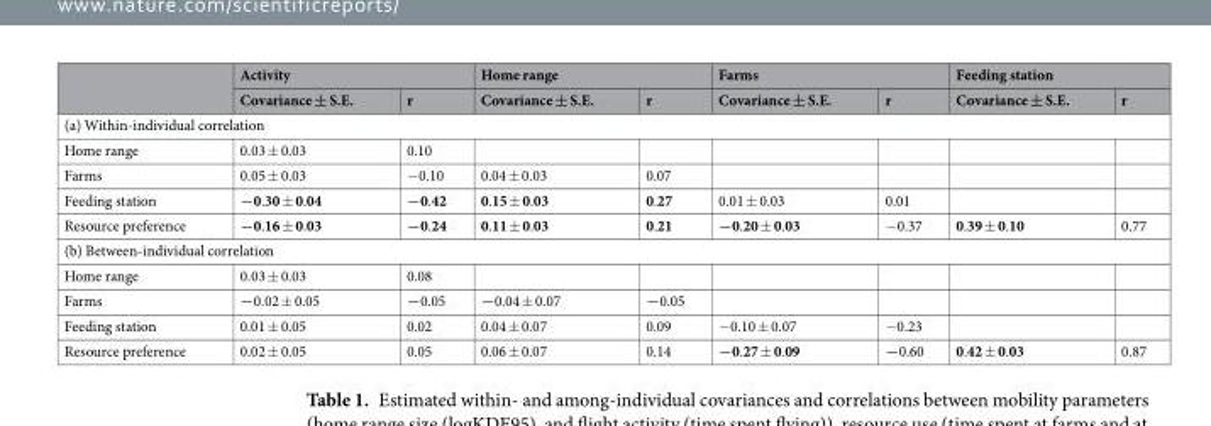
<table><thead><tr><td rowspan="2"></td><td colspan="2">Activity</td><td colspan="2">Home range</td><td colspan="2">Farms</td><td colspan="2">Feeding station</td></tr><tr><td>Covariance ± S.E.</td><td>r</td><td>Covariance ± S.E.</td><td>r</td><td>Covariance ± S.E.</td><td>r</td><td>Covariance ± S.E.</td><td>r</td></tr></thead><tbody><tr><td colspan="9">(a) Within-individual correlation</td></tr><tr><td>Home range</td><td>0.03 ± 0.03</td><td>0.10</td><td></td><td></td><td></td><td></td><td></td><td></td></tr><tr><td>Farms</td><td>0.05 ± 0.03</td><td>−0.10</td><td>0.04 ± 0.03</td><td>0.07</td><td></td><td></td><td></td><td></td></tr><tr><td>Feeding station</td><td>−0.30 ± 0.04</td><td>−0.42</td><td>0.15 ± 0.03</td><td>0.27</td><td>0.01 ± 0.03</td><td>0.01</td><td></td><td></td></tr><tr><td>Resource preference</td><td>−0.16 ± 0.03</td><td>−0.24</td><td>0.11 ± 0.03</td><td>0.21</td><td>−0.20 ± 0.03</td><td>−0.37</td><td>0.39 ± 0.10</td><td>0.77</td></tr><tr><td colspan="9">(b) Between-individual correlation</td></tr><tr><td>Home range</td><td>0.03 ± 0.03</td><td>0.08</td><td></td><td></td><td></td><td></td><td></td><td></td></tr><tr><td>Farms</td><td>−0.02 ± 0.05</td><td>−0.05</td><td>−0.04 ± 0.07</td><td>−0.05</td><td></td><td></td><td></td><td></td></tr><tr><td>Feeding station</td><td>0.01 ± 0.05</td><td>0.02</td><td>0.04 ± 0.07</td><td>0.09</td><td>−0.10 ± 0.07</td><td>−0.23</td><td></td><td></td></tr><tr><td>Resource preference</td><td>0.02 ± 0.05</td><td>0.05</td><td>0.06 ± 0.07</td><td>0.14</td><td>−0.27 ± 0.09</td><td>−0.60</td><td>0.42 ± 0.03</td><td>0.87</td></tr></tbody></table>